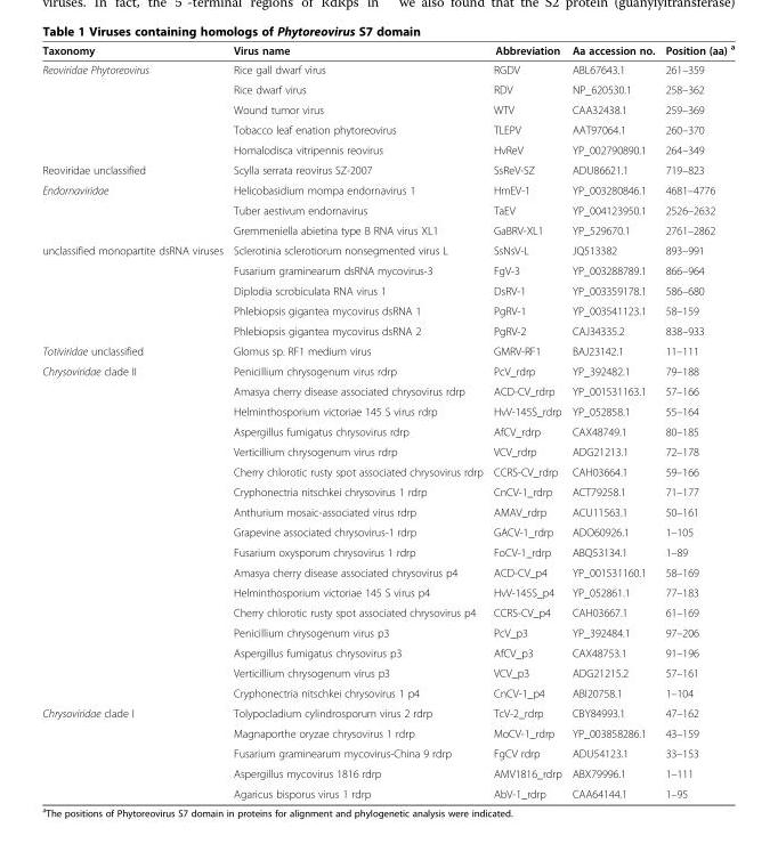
<table><thead><tr><td>Taxonomy</td><td>Virus name</td><td>Abbreviation</td><td>Aa accession no.</td><td>Position (aa) <sup>a</sup></td></tr></thead><tbody><tr><td rowspan="5">Reoviridae Phytoreovirus</td><td>Rice gall dwarf virus</td><td>RGDV</td><td>ABL67643.1</td><td>261–359</td></tr><tr><td>Rice dwarf virus</td><td>RDV</td><td>NP_620530.1</td><td>258–362</td></tr><tr><td>Wound tumor virus</td><td>WTV</td><td>CAA32438.1</td><td>259–369</td></tr><tr><td>Tobacco leaf enation phytoreovirus</td><td>TLEPV</td><td>AAT97064.1</td><td>260–370</td></tr><tr><td>Homalodisca vitripennis reovirus</td><td>HvReV</td><td>YP_002790890.1</td><td>264–349</td></tr><tr><td>Reoviridae unclassified</td><td>Scylla serrata reovirus SZ-2007</td><td>SsReV-SZ</td><td>ADU86621.1</td><td>719–823</td></tr><tr><td rowspan="3">Endornaviridae</td><td>Helicobasidium mompa endornavirus 1</td><td>HmEV-1</td><td>YP_003280846.1</td><td>4681–4776</td></tr><tr><td>Tuber aestivum endornavirus</td><td>TaEV</td><td>YP_004123950.1</td><td>2526–2632</td></tr><tr><td>Gremmeniella abietina type B RNA virus XL1</td><td>GaBRV-XL1</td><td>YP_529670.1</td><td>2761–2862</td></tr><tr><td rowspan="5">unclassified monopartite dsRNA viruses</td><td>Sclerotinia sclerotiorum nonsegmented virus L</td><td>SsNsV-L</td><td>JQ513382</td><td>893–991</td></tr><tr><td>Fusarium graminearum dsRNA mycovirus-3</td><td>FgV-3</td><td>YP_003288789.1</td><td>866–964</td></tr><tr><td>Diplodia scrobiculata RNA virus 1</td><td>DsRV-1</td><td>YP_003359178.1</td><td>586–680</td></tr><tr><td>Phlebiopsis gigantea mycovirus dsRNA 1</td><td>PgRV-1</td><td>YP_003541123.1</td><td>58–159</td></tr><tr><td>Phlebiopsis gigantea mycovirus dsRNA 2</td><td>PgRV-2</td><td>CAJ34335.2</td><td>838–933</td></tr><tr><td>Totiviridae unclassified</td><td>Glomus sp. RF1 medium virus</td><td>GMRV-RF1</td><td>BAJ23142.1</td><td>11–111</td></tr><tr><td rowspan="17">Chrysoviridae clade II</td><td>Penicillium chrysogenum virus rdrp</td><td>PcV_rdrp</td><td>YP_392482.1</td><td>79–188</td></tr><tr><td>Amasya cherry disease associated chrysovirus rdrp</td><td>ACD-CV_rdrp</td><td>YP_001531163.1</td><td>57–166</td></tr><tr><td>Helminthosporium victoriae 145 S virus rdrp</td><td>HvV-145S_rdrp</td><td>YP_052858.1</td><td>55–164</td></tr><tr><td>Aspergillus fumigatus chrysovirus rdrp</td><td>AfCV_rdrp</td><td>CAX48749.1</td><td>80–185</td></tr><tr><td>Verticillium chrysogenum virus rdrp</td><td>VCV_rdrp</td><td>ADG21213.1</td><td>72–178</td></tr><tr><td>Cherry chlorotic rusty spot associated chrysovirus rdrp</td><td>CCRS-CV_rdrp</td><td>CAH03664.1</td><td>59–166</td></tr><tr><td>Cryphonectria nitschkei chrysovirus 1 rdrp</td><td>CnCV-1_rdrp</td><td>ACT79258.1</td><td>71–177</td></tr><tr><td>Anthurium mosaic-associated virus rdrp</td><td>AMAV_rdrp</td><td>ACU11563.1</td><td>50–161</td></tr><tr><td>Grapevine associated chrysovirus-1 rdrp</td><td>GACV-1_rdrp</td><td>ADO60926.1</td><td>1–105</td></tr><tr><td>Fusarium oxysporum chrysovirus 1 rdrp</td><td>FoCV-1_rdrp</td><td>ABQ53134.1</td><td>1–89</td></tr><tr><td>Amasya cherry disease associated chrysovirus p4</td><td>ACD-CV_p4</td><td>YP_001531160.1</td><td>58–169</td></tr><tr><td>Helminthosporium victoriae 145 S virus p4</td><td>HvV-145S_p4</td><td>YP_052861.1</td><td>77–183</td></tr><tr><td>Cherry chlorotic rusty spot associated chrysovirus p4</td><td>CCRS-CV_p4</td><td>CAH03667.1</td><td>61–169</td></tr><tr><td>Penicillium chrysogenum virus p3</td><td>PcV_p3</td><td>YP_392484.1</td><td>97–206</td></tr><tr><td>Aspergillus fumigatus chrysovirus p3</td><td>AfCV_p3</td><td>CAX48753.1</td><td>91–196</td></tr><tr><td>Verticillium chrysogenum virus p3</td><td>VCV_p3</td><td>ADG21215.2</td><td>57–161</td></tr><tr><td>Cryphonectria nitschkei chrysovirus 1 p4</td><td>CnCV-1_p4</td><td>ABI20758.1</td><td>1–104</td></tr><tr><td rowspan="5">Chrysoviridae clade I</td><td>Tolypocladium cylindrosporum virus 2 rdrp</td><td>TcV-2_rdrp</td><td>CBY84993.1</td><td>47–162</td></tr><tr><td>Magnaporthe oryzae chrysovirus 1 rdrp</td><td>MoCV-1_rdrp</td><td>YP_003858286.1</td><td>43–159</td></tr><tr><td>Fusarium graminearum mycovirus-China 9 rdrp</td><td>FgCV rdrp</td><td>ADU54123.1</td><td>33–153</td></tr><tr><td>Aspergillus mycovirus 1816 rdrp</td><td>AMV1816_rdrp</td><td>ABX79996.1</td><td>1–111</td></tr><tr><td>Agaricus bisporus virus 1 rdrp</td><td>AbV-1_rdrp</td><td>CAA64144.1</td><td>1–95</td></tr></tbody></table>